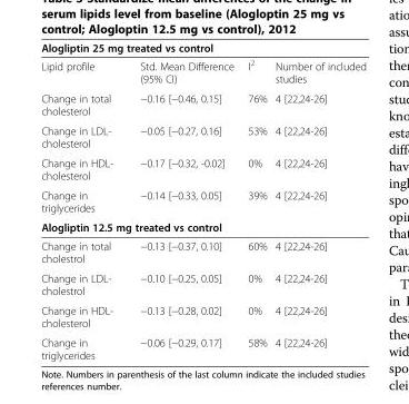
<table><tbody><tr><td colspan="4">Alogliptin 25 mg treated vs control</td></tr><tr><td>Lipid profile</td><td>Std. Mean Difference (95% CI)</td><td>I<sup>2</sup></td><td>Number of included studies</td></tr><tr><td>Change in total cholesterol</td><td>−0.16 [−0.46, 0.15]</td><td>76%</td><td>4 [22,24-26]</td></tr><tr><td>Change in LDL- cholesterol</td><td>−0.05 [−0.27, 0.16]</td><td>53%</td><td>4 [22,24-26]</td></tr><tr><td>Change in HDL- cholesterol</td><td>−0.17 [−0.32, -0.02]</td><td>0%</td><td>4 [22,24-26]</td></tr><tr><td>Change in triglycerides</td><td>−0.14 [−0.33, 0.05]</td><td>39%</td><td>4 [22,24-26]</td></tr><tr><td colspan="4">Alogliptin 12.5 mg treated vs control</td></tr><tr><td>Change in total cholestrol</td><td>−0.13 [−0.37, 0.10]</td><td>60%</td><td>4 [22,24-26]</td></tr><tr><td>Change in LDL- cholestrol</td><td>−0.10 [−0.25, 0.05]</td><td>0%</td><td>4 [22,24-26]</td></tr><tr><td>Change in HDL- cholesterol</td><td>−0.13 [−0.28, 0.02]</td><td>0%</td><td>4 [22,24-26]</td></tr><tr><td>Change in triglycerides</td><td>−0.06 [−0.29, 0.17]</td><td>58%</td><td>4 [22,24-26]</td></tr></tbody></table>